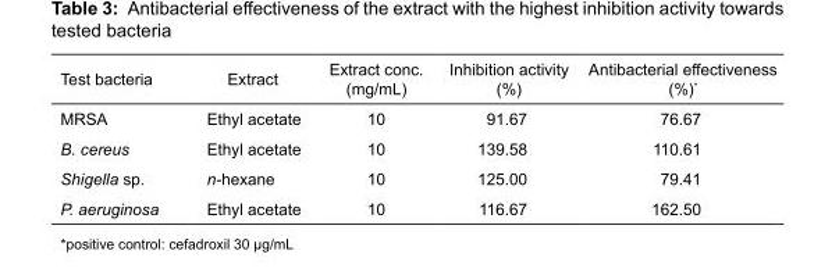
<table><thead><tr><td>Test bacteria</td><td>Extract</td><td>Extract conc. (mg/mL)</td><td>Inhibition activity (%)</td><td>Antibacterial effectiveness (%)*</td></tr></thead><tbody><tr><td>MRSA</td><td>Ethyl acetate</td><td>10</td><td>91.67</td><td>76.67</td></tr><tr><td>B. cereus</td><td>Ethyl acetate</td><td>10</td><td>139.58</td><td>110.61</td></tr><tr><td>Shigella sp.</td><td>n-hexane</td><td>10</td><td>125.00</td><td>79.41</td></tr><tr><td>P. aeruginosa</td><td>Ethyl acetate</td><td>10</td><td>116.67</td><td>162.50</td></tr></tbody></table>